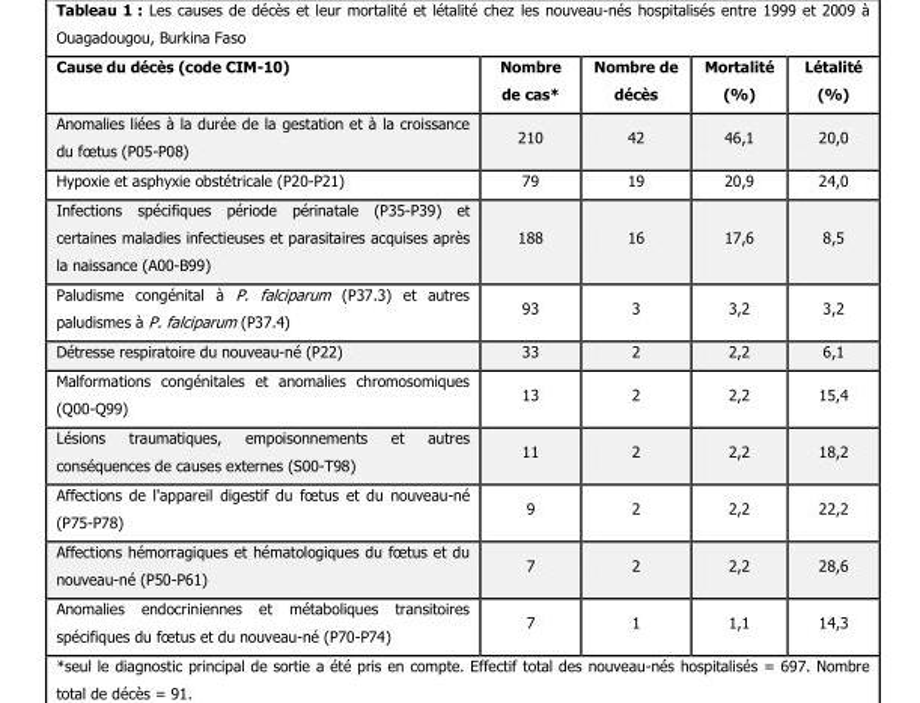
<table><thead><tr><td>Cause du décès (code CIM-10)</td><td>Nombre de cas*</td><td>Nombre de décès</td><td>Mortalité (%)</td><td>Létalité (%)</td></tr></thead><tbody><tr><td>Anomalies liées à la durée de la gestation et à la croissance du fœtus (P05-P08)</td><td>210</td><td>42</td><td>46,1</td><td>20,0</td></tr><tr><td>Hypoxie et asphyxie obstétricale (P20-P21)</td><td>79</td><td>19</td><td>20,9</td><td>24,0</td></tr><tr><td>Infections spécifiques période périnatale (P35-P39) et certaines maladies infectieuses et parasitaires acquises après la naissance (A00-B99)</td><td>188</td><td>16</td><td>17,6</td><td>8,5</td></tr><tr><td>Paludisme congénital à P. falciparum (P37.3) et autres paludismes à P. falciparum (P37.4)</td><td>93</td><td>3</td><td>3,2</td><td>3,2</td></tr><tr><td>Détresse respiratoire du nouveau-né (P22)</td><td>33</td><td>2</td><td>2,2</td><td>6,1</td></tr><tr><td>Malformations congénitales et anomalies chromosomiques (Q00-Q99)</td><td>13</td><td>2</td><td>2,2</td><td>15,4</td></tr><tr><td>Lésions traumatiques, empoisonnements et autres conséquences de causes externes (S00-T98)</td><td>11</td><td>2</td><td>2,2</td><td>18,2</td></tr><tr><td>Affections de l&#x27;appareil digestif du fœtus et du nouveau-né (P75-P78)</td><td>9</td><td>2</td><td>2,2</td><td>22,2</td></tr><tr><td>Affections hémorragiques et hématologiques du fœtus et du nouveau-né (P50-P61)</td><td>7</td><td>2</td><td>2,2</td><td>28,6</td></tr><tr><td>Anomalies endocriniennes et métaboliques transitoires spécifiques du fœtus et du nouveau-né (P70-P74)</td><td>7</td><td>1</td><td>1,1</td><td>14,3</td></tr></tbody></table>